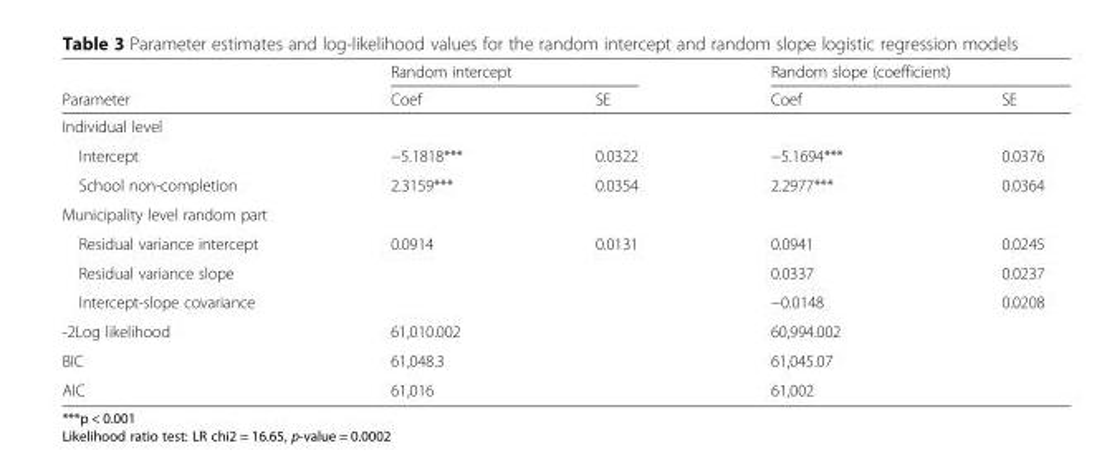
<table><thead><tr><td rowspan="2">Parameter</td><td colspan="2">Random intercept</td><td colspan="2">Random slope (coefficient)</td></tr><tr><td>Coef</td><td>SE</td><td>Coef</td><td>SE</td></tr></thead><tbody><tr><td colspan="5">Individual level</td></tr><tr><td>Intercept</td><td>−5.1818***</td><td>0.0322</td><td>−5.1694***</td><td>0.0376</td></tr><tr><td>School non-completion</td><td>2.3159***</td><td>0.0354</td><td>2.2977***</td><td>0.0364</td></tr><tr><td colspan="5">Municipality level random part</td></tr><tr><td>Residual variance intercept</td><td>0.0914</td><td>0.0131</td><td>0.0941</td><td>0.0245</td></tr><tr><td>Residual variance slope</td><td></td><td></td><td>0.0337</td><td>0.0237</td></tr><tr><td>Intercept-slope covariance</td><td></td><td></td><td>−0.0148</td><td>0.0208</td></tr><tr><td>-2Log likelihood</td><td>61,010.002</td><td></td><td>60,994.002</td><td></td></tr><tr><td>BIC</td><td>61,048.3</td><td></td><td>61,045.07</td><td></td></tr><tr><td>AIC</td><td>61,016</td><td></td><td>61,002</td><td></td></tr></tbody></table>